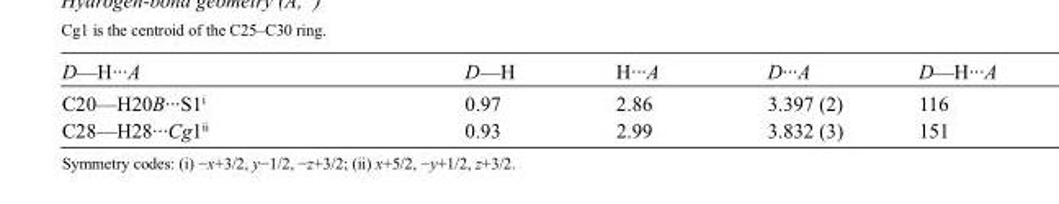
<table><tbody><tr><td>D—H···A</td><td>D—H</td><td>H···A</td><td>D···A</td><td>D—H···A</td></tr><tr><td>C20—H20B···S1<sup>i</sup></td><td>0.97</td><td>2.86</td><td>3.397 (2)</td><td>116</td></tr><tr><td>C28—H28···Cg1<sup>ii</sup></td><td>0.93</td><td>2.99</td><td>3.832 (3)</td><td>151</td></tr></tbody></table>